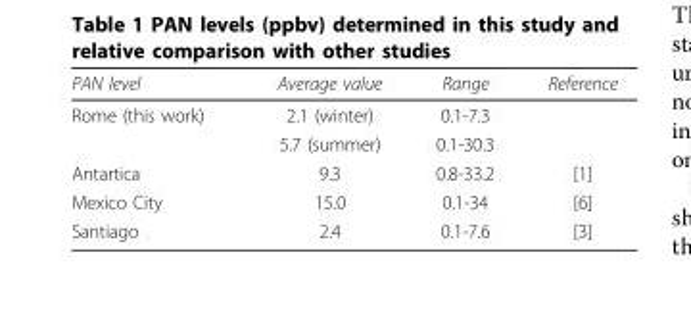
<table><thead><tr><td>PAN level</td><td>Average value</td><td>Range</td><td>Reference</td></tr></thead><tbody><tr><td rowspan="2">Rome (this work)</td><td>2.1 (winter)</td><td>0.1-7.3</td><td></td></tr><tr><td>5.7 (summer)</td><td>0.1-30.3</td><td></td></tr><tr><td>Antartica</td><td>9.3</td><td>0.8-33.2</td><td>[1]</td></tr><tr><td>Mexico City</td><td>15.0</td><td>0.1-34</td><td>[6]</td></tr><tr><td>Santiago</td><td>2.4</td><td>0.1-7.6</td><td>[3]</td></tr></tbody></table>